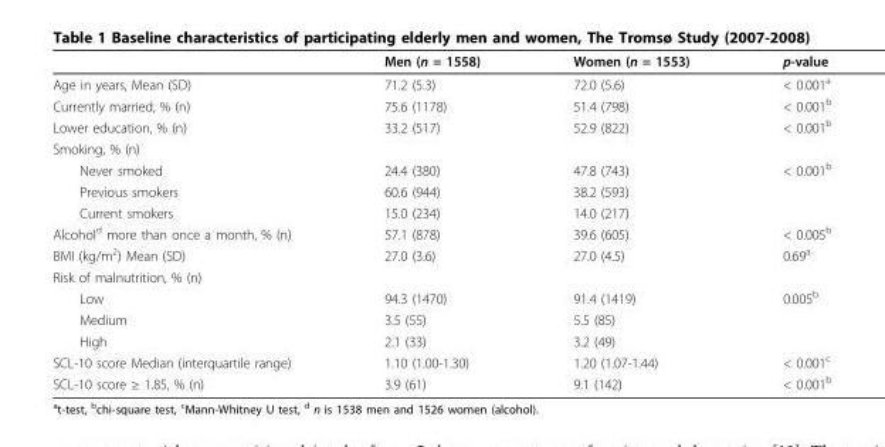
<table><thead><tr><td></td><td>Men (n = 1558)</td><td>Women (n = 1553)</td><td>p-value</td></tr></thead><tbody><tr><td>Age in years, Mean (SD)</td><td>71.2 (5.3)</td><td>72.0 (5.6)</td><td>&lt; 0.001<sup>a</sup></td></tr><tr><td>Currently married, % (n)</td><td>75.6 (1178)</td><td>51.4 (798)</td><td>&lt; 0.001<sup>b</sup></td></tr><tr><td>Lower education, % (n)</td><td>33.2 (517)</td><td>52.9 (822)</td><td>&lt; 0.001<sup>b</sup></td></tr><tr><td colspan="4">Smoking, % (n)</td></tr><tr><td>Never smoked</td><td>24.4 (380)</td><td>47.8 (743)</td><td>&lt; 0.001<sup>b</sup></td></tr><tr><td>Previous smokers</td><td>60.6 (944)</td><td>38.2 (593)</td><td></td></tr><tr><td>Current smokers</td><td>15.0 (234)</td><td>14.0 (217)</td><td></td></tr><tr><td>Alcohol<sup>d</sup> more than once a month, % (n)</td><td>57.1 (878)</td><td>39.6 (605)</td><td>&lt; 0.005<sup>b</sup></td></tr><tr><td>BMI (kg/m<sup>2</sup>) Mean (SD)</td><td>27.0 (3.6)</td><td>27.0 (4.5)</td><td>0.69<sup>a</sup></td></tr><tr><td colspan="4">Risk of malnutrition, % (n)</td></tr><tr><td>Low</td><td>94.3 (1470)</td><td>91.4 (1419)</td><td>0.005<sup>b</sup></td></tr><tr><td>Medium</td><td>3.5 (55)</td><td>5.5 (85)</td><td></td></tr><tr><td>High</td><td>2.1 (33)</td><td>3.2 (49)</td><td></td></tr><tr><td>SCL-10 score Median (interquartile range)</td><td>1.10 (1.00-1.30)</td><td>1.20 (1.07-1.44)</td><td>&lt; 0.001<sup>c</sup></td></tr><tr><td>SCL-10 score ≥ 1.85, % (n)</td><td>3.9 (61)</td><td>9.1 (142)</td><td>&lt; 0.001<sup>b</sup></td></tr></tbody></table>